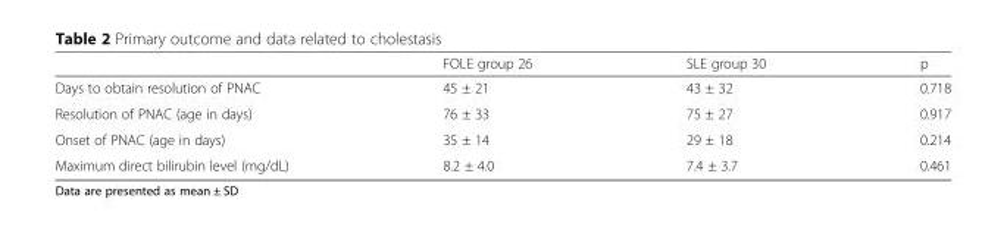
<table><thead><tr><td></td><td>FOLE group 26</td><td>SLE group 30</td><td>p</td></tr></thead><tbody><tr><td>Days to obtain resolution of PNAC</td><td>45 ± 21</td><td>43 ± 32</td><td>0.718</td></tr><tr><td>Resolution of PNAC (age in days)</td><td>76 ± 33</td><td>75 ± 27</td><td>0.917</td></tr><tr><td>Onset of PNAC (age in days)</td><td>35 ± 14</td><td>29 ± 18</td><td>0.214</td></tr><tr><td>Maximum direct bilirubin level (mg/dL)</td><td>8.2 ± 4.0</td><td>7.4 ± 3.7</td><td>0.461</td></tr></tbody></table>